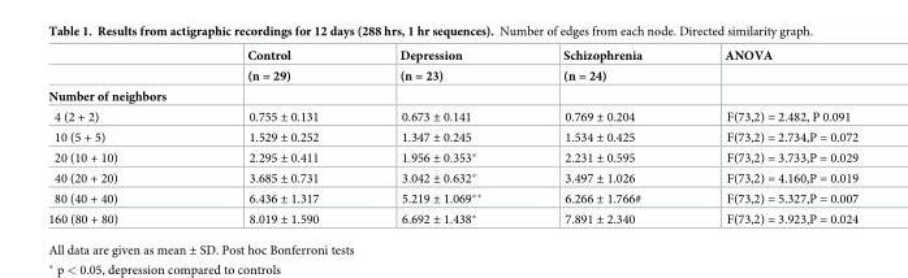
<table><thead><tr><td rowspan="2"></td><td rowspan="2">Control (n = 29)</td><td rowspan="2">Depression (n = 23)</td><td rowspan="2">Schizophrenia (n = 24)</td><td rowspan="2">ANOVA</td></tr><tr></tr></thead><tbody><tr><td colspan="5">Number of neighbors</td></tr><tr><td>4 (2 + 2)</td><td>0.755 ± 0.131</td><td>0.673 ± 0.141</td><td>0.769 ± 0.204</td><td>F(73,2) = 2.482, P 0.091</td></tr><tr><td>10 (5 + 5)</td><td>1.529 ± 0.252</td><td>1.347 ± 0.245</td><td>1.534 ± 0.425</td><td>F(73,2) = 2.734,P = 0.072</td></tr><tr><td>20 (10 + 10)</td><td>2.295 ± 0.411</td><td>1.956 ± 0.353*</td><td>2.231 ± 0.595</td><td>F(73,2) = 3.733,P = 0.029</td></tr><tr><td>40 (20 + 20)</td><td>3.685 ± 0.731</td><td>3.042 ± 0.632*</td><td>3.497 ± 1.026</td><td>F(73,2) = 4.160,P = 0.019</td></tr><tr><td>80 (40 + 40)</td><td>6.436 ± 1.317</td><td>5.219 ± 1.069**</td><td>6.266 ± 1.766#</td><td>F(73,2) = 5.327,P = 0.007</td></tr><tr><td>160 (80 + 80)</td><td>8.019 ± 1.590</td><td>6.692 ± 1.438*</td><td>7.891 ± 2.340</td><td>F(73,2) = 3.923,P = 0.024</td></tr></tbody></table>